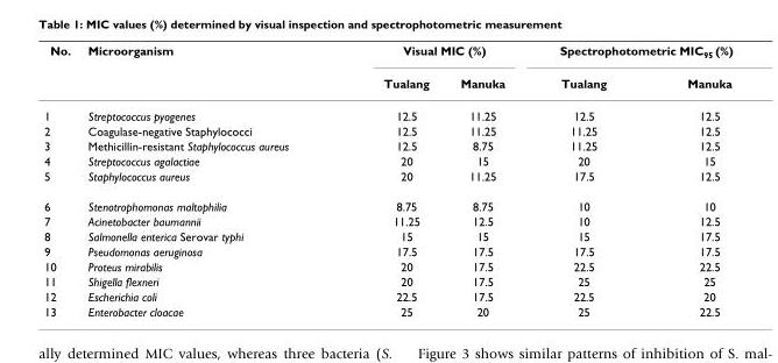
<table><thead><tr><td rowspan="2">No.</td><td rowspan="2">Microorganism</td><td colspan="2">Visual MIC (%)</td><td colspan="2">Spectrophotometric MIC<sub>95</sub> (%)</td></tr><tr><td>Tualang</td><td>Manuka</td><td>Tualang</td><td>Manuka</td></tr></thead><tbody><tr><td>1</td><td>Streptococcus pyogenes</td><td>12.5</td><td>11.25</td><td>12.5</td><td>12.5</td></tr><tr><td>2</td><td>Coagulase-negative Staphylococci</td><td>12.5</td><td>11.25</td><td>11.25</td><td>12.5</td></tr><tr><td>3</td><td>Methicillin-resistant Staphylococcus aureus</td><td>12.5</td><td>8.75</td><td>11.25</td><td>12.5</td></tr><tr><td>4</td><td>Streptococcus agalactiae</td><td>20</td><td>15</td><td>20</td><td>15</td></tr><tr><td>5</td><td>Staphylococcus aureus</td><td>20</td><td>11.25</td><td>17.5</td><td>12.5</td></tr><tr><td>6</td><td>Stenotrophomonas maltophilia</td><td>8.75</td><td>8.75</td><td>10</td><td>10</td></tr><tr><td>7</td><td>Acinetobacter baumannii</td><td>11.25</td><td>12.5</td><td>10</td><td>12.5</td></tr><tr><td>8</td><td>Salmonella enterica Serovar typhi</td><td>15</td><td>15</td><td>15</td><td>17.5</td></tr><tr><td>9</td><td>Pseudomonas aeruginosa</td><td>17.5</td><td>17.5</td><td>17.5</td><td>17.5</td></tr><tr><td>10</td><td>Proteus mirabilis</td><td>20</td><td>17.5</td><td>22.5</td><td>22.5</td></tr><tr><td>11</td><td>Shigella flexneri</td><td>20</td><td>17.5</td><td>25</td><td>25</td></tr><tr><td>12</td><td>Escherichia coli</td><td>22.5</td><td>17.5</td><td>22.5</td><td>20</td></tr><tr><td>13</td><td>Enterobacter cloacae</td><td>25</td><td>20</td><td>25</td><td>22.5</td></tr></tbody></table>